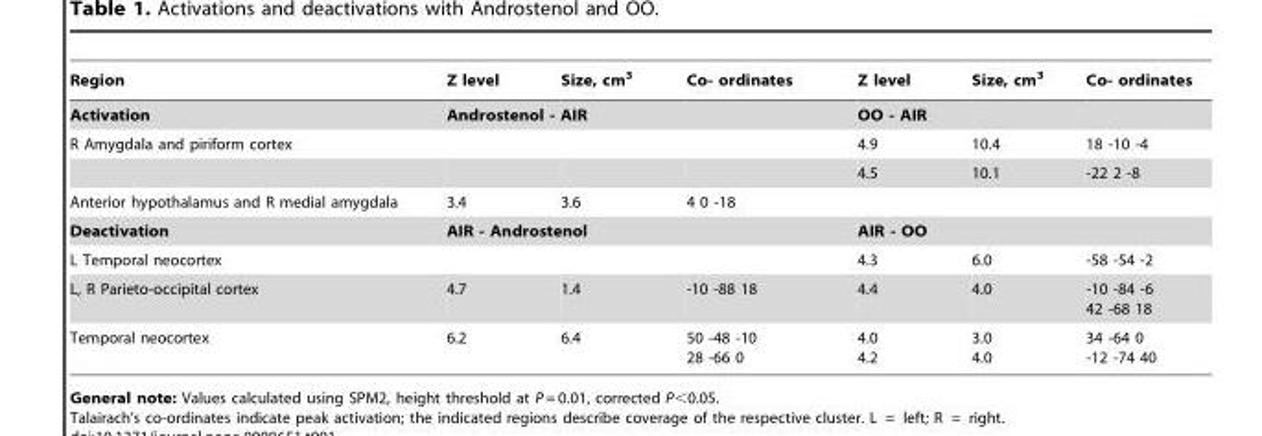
<table><thead><tr><td>Region</td><td>Z level</td><td>Size, cm<sup>3</sup></td><td>Co- ordinates</td><td>Z level</td><td>Size, cm<sup>3</sup></td><td>Co- ordinates</td></tr></thead><tbody><tr><td>Activation</td><td colspan="3">Androstenol - AIR</td><td colspan="3">OO - AIR</td></tr><tr><td rowspan="2">R Amygdala and piriform cortex</td><td></td><td></td><td></td><td>4.9</td><td>10.4</td><td>18 -10 -4</td></tr><tr><td></td><td></td><td></td><td>4.5</td><td>10.1</td><td>-22 2 -8</td></tr><tr><td>Anterior hypothalamus and R medial amygdala</td><td>3.4</td><td>3.6</td><td>4 0 -18</td><td></td><td></td><td></td></tr><tr><td>Deactivation</td><td colspan="3">AIR - Androstenol</td><td colspan="3">AIR - OO</td></tr><tr><td>L Temporal neocortex</td><td></td><td></td><td></td><td>4.3</td><td>6.0</td><td>-58 -54 -2</td></tr><tr><td>L, R Parieto-occipital cortex</td><td>4.7</td><td>1.4</td><td>-10 -88 18</td><td>4.4</td><td>4.0</td><td>-10 -84 -6 42 -68 18</td></tr><tr><td>Temporal neocortex</td><td>6.2</td><td>6.4</td><td>50 -48 -10 28 -66 0</td><td>4.0 4.2</td><td>3.0 4.0</td><td>34 -64 0 -12 -74 40</td></tr></tbody></table>